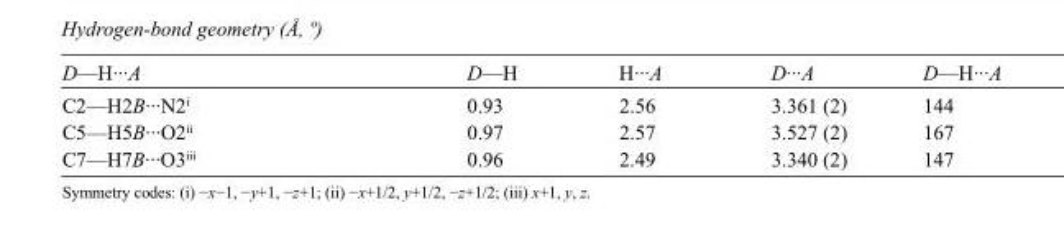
<table><tbody><tr><td>D—H···A</td><td>D—H</td><td>H···A</td><td>D···A</td><td>D—H···A</td></tr><tr><td>C2—H2B···N2<sup>i</sup></td><td>0.93</td><td>2.56</td><td>3.361 (2)</td><td>144</td></tr><tr><td>C5—H5B···O2<sup>ii</sup></td><td>0.97</td><td>2.57</td><td>3.527 (2)</td><td>167</td></tr><tr><td>C7—H7B···O3<sup>iii</sup></td><td>0.96</td><td>2.49</td><td>3.340 (2)</td><td>147</td></tr></tbody></table>